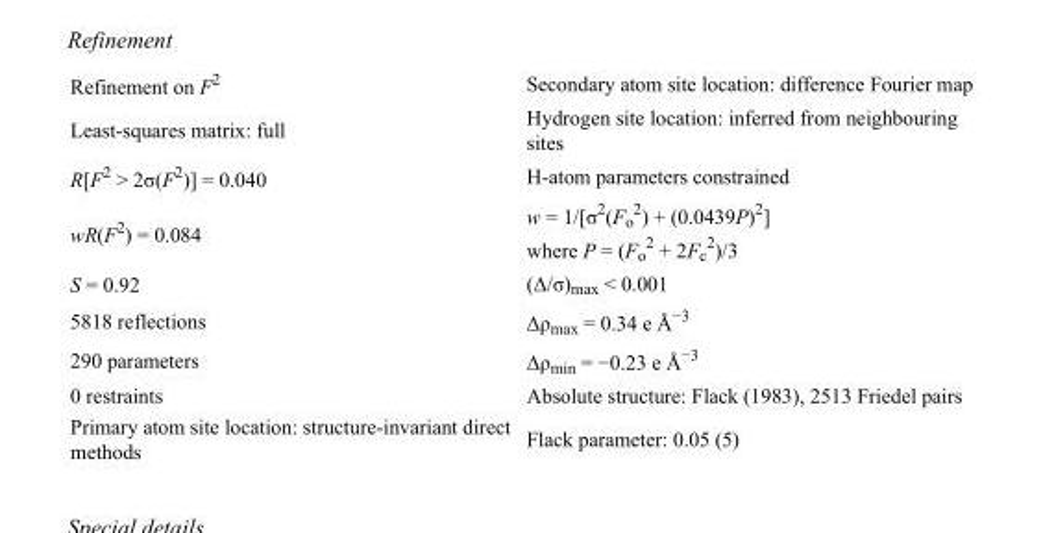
<table><tbody><tr><td>Refinement on F<sup>2</sup></td><td>Secondary atom site location: difference Fourier map</td></tr><tr><td>Least-squares matrix: full</td><td>Hydrogen site location: inferred from neighbouring sites</td></tr><tr><td>R[F<sup>2</sup> &gt; 2σ(F<sup>2</sup>)] = 0.040</td><td>H-atom parameters constrained</td></tr><tr><td>wR(F<sup>2</sup>) = 0.084</td><td>w = 1/[σ<sup>2</sup>(F<sub>o</sub> <sup>2</sup>) + (0.0439P)<sup>2</sup>] where P = (F<sub>o</sub> <sup>2</sup> + 2F<sub>c</sub> <sup>2</sup>)/3</td></tr><tr><td>S = 0.92</td><td>(Δ/σ)<sub>max</sub> &lt; 0.001</td></tr><tr><td>5818 reflections</td><td>Δρ<sub>max</sub> = 0.34 e Å<sup>−3</sup></td></tr><tr><td>290 parameters</td><td>Δρ<sub>min</sub> = −0.23 e Å<sup>−3</sup></td></tr><tr><td>0 restraints</td><td>Absolute structure: Flack (1983), 2513 Friedel pairs</td></tr><tr><td>Primary atom site location: structure-invariant direct methods</td><td>Flack parameter: 0.05 (5)</td></tr></tbody></table>